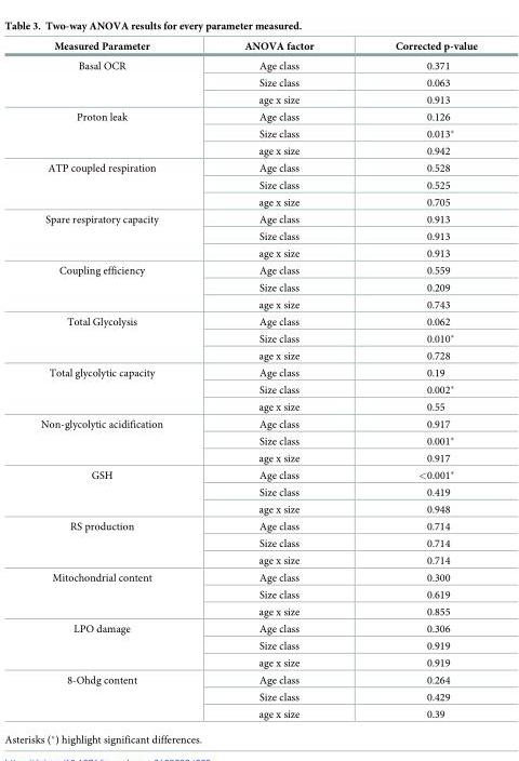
<table><thead><tr><td>Measured Parameter</td><td>ANOVA factor</td><td>Corrected p-value</td></tr></thead><tbody><tr><td rowspan="3">Basal OCR</td><td>Age class</td><td>0.371</td></tr><tr><td>Size class</td><td>0.063</td></tr><tr><td>age x size</td><td>0.913</td></tr><tr><td rowspan="3">Proton leak</td><td>Age class</td><td>0.126</td></tr><tr><td>Size class</td><td>0.013*</td></tr><tr><td>age x size</td><td>0.942</td></tr><tr><td rowspan="3">ATP coupled respiration</td><td>Age class</td><td>0.528</td></tr><tr><td>Size class</td><td>0.525</td></tr><tr><td>age x size</td><td>0.705</td></tr><tr><td rowspan="3">Spare respiratory capacity</td><td>Age class</td><td>0.913</td></tr><tr><td>Size class</td><td>0.913</td></tr><tr><td>age x size</td><td>0.913</td></tr><tr><td rowspan="3">Coupling efficiency</td><td>Age class</td><td>0.559</td></tr><tr><td>Size class</td><td>0.209</td></tr><tr><td>age x size</td><td>0.743</td></tr><tr><td rowspan="3">Total Glycolysis</td><td>Age class</td><td>0.062</td></tr><tr><td>Size class</td><td>0.010*</td></tr><tr><td>age x size</td><td>0.728</td></tr><tr><td rowspan="3">Total glycolytic capacity</td><td>Age class</td><td>0.19</td></tr><tr><td>Size class</td><td>0.002*</td></tr><tr><td>age x size</td><td>0.55</td></tr><tr><td rowspan="3">Non-glycolytic acidification</td><td>Age class</td><td>0.917</td></tr><tr><td>Size class</td><td>0.001*</td></tr><tr><td>age x size</td><td>0.917</td></tr><tr><td rowspan="3">GSH</td><td>Age class</td><td>&lt;0.001*</td></tr><tr><td>Size class</td><td>0.419</td></tr><tr><td>age x size</td><td>0.948</td></tr><tr><td rowspan="3">RS production</td><td>Age class</td><td>0.714</td></tr><tr><td>Size class</td><td>0.714</td></tr><tr><td>age x size</td><td>0.714</td></tr><tr><td rowspan="3">Mitochondrial content</td><td>Age class</td><td>0.300</td></tr><tr><td>Size class</td><td>0.619</td></tr><tr><td>age x size</td><td>0.855</td></tr><tr><td rowspan="3">LPO damage</td><td>Age class</td><td>0.306</td></tr><tr><td>Size class</td><td>0.919</td></tr><tr><td>age x size</td><td>0.919</td></tr><tr><td rowspan="3">8-Ohdg content</td><td>Age class</td><td>0.264</td></tr><tr><td>Size class</td><td>0.429</td></tr><tr><td>age x size</td><td>0.39</td></tr></tbody></table>